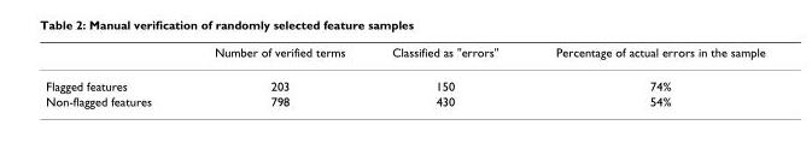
<table><thead><tr><td></td><td>Number of verified terms</td><td>Classified as &quot;errors&quot;</td><td>Percentage of actual errors in the sample</td></tr></thead><tbody><tr><td>Flagged features</td><td>203</td><td>150</td><td>74%</td></tr><tr><td>Non-flagged features</td><td>798</td><td>430</td><td>54%</td></tr></tbody></table>